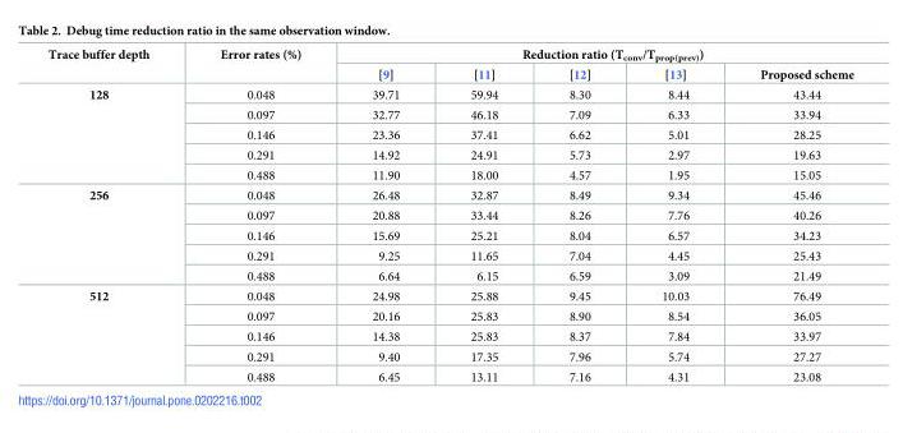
<table><thead><tr><td rowspan="2">Trace buffer depth</td><td rowspan="2">Error rates (%)</td><td colspan="5">Reduction ratio (T<sub>conv</sub>/T<sub>prop(prev)</sub>)</td></tr><tr><td>[9]</td><td>[11]</td><td>[12]</td><td>[13]</td><td>Proposed scheme</td></tr></thead><tbody><tr><td rowspan="5">128</td><td>0.048</td><td>39.71</td><td>59.94</td><td>8.30</td><td>8.44</td><td>43.44</td></tr><tr><td>0.097</td><td>32.77</td><td>46.18</td><td>7.09</td><td>6.33</td><td>33.94</td></tr><tr><td>0.146</td><td>23.36</td><td>37.41</td><td>6.62</td><td>5.01</td><td>28.25</td></tr><tr><td>0.291</td><td>14.92</td><td>24.91</td><td>5.73</td><td>2.97</td><td>19.63</td></tr><tr><td>0.488</td><td>11.90</td><td>18.00</td><td>4.57</td><td>1.95</td><td>15.05</td></tr><tr><td rowspan="5">256</td><td>0.048</td><td>26.48</td><td>32.87</td><td>8.49</td><td>9.34</td><td>45.46</td></tr><tr><td>0.097</td><td>20.88</td><td>33.44</td><td>8.26</td><td>7.76</td><td>40.26</td></tr><tr><td>0.146</td><td>15.69</td><td>25.21</td><td>8.04</td><td>6.57</td><td>34.23</td></tr><tr><td>0.291</td><td>9.25</td><td>11.65</td><td>7.04</td><td>4.45</td><td>25.43</td></tr><tr><td>0.488</td><td>6.64</td><td>6.15</td><td>6.59</td><td>3.09</td><td>21.49</td></tr><tr><td rowspan="5">512</td><td>0.048</td><td>24.98</td><td>25.88</td><td>9.45</td><td>10.03</td><td>76.49</td></tr><tr><td>0.097</td><td>20.16</td><td>25.83</td><td>8.90</td><td>8.54</td><td>36.05</td></tr><tr><td>0.146</td><td>14.38</td><td>25.83</td><td>8.37</td><td>7.84</td><td>33.97</td></tr><tr><td>0.291</td><td>9.40</td><td>17.35</td><td>7.96</td><td>5.74</td><td>27.27</td></tr><tr><td>0.488</td><td>6.45</td><td>13.11</td><td>7.16</td><td>4.31</td><td>23.08</td></tr></tbody></table>